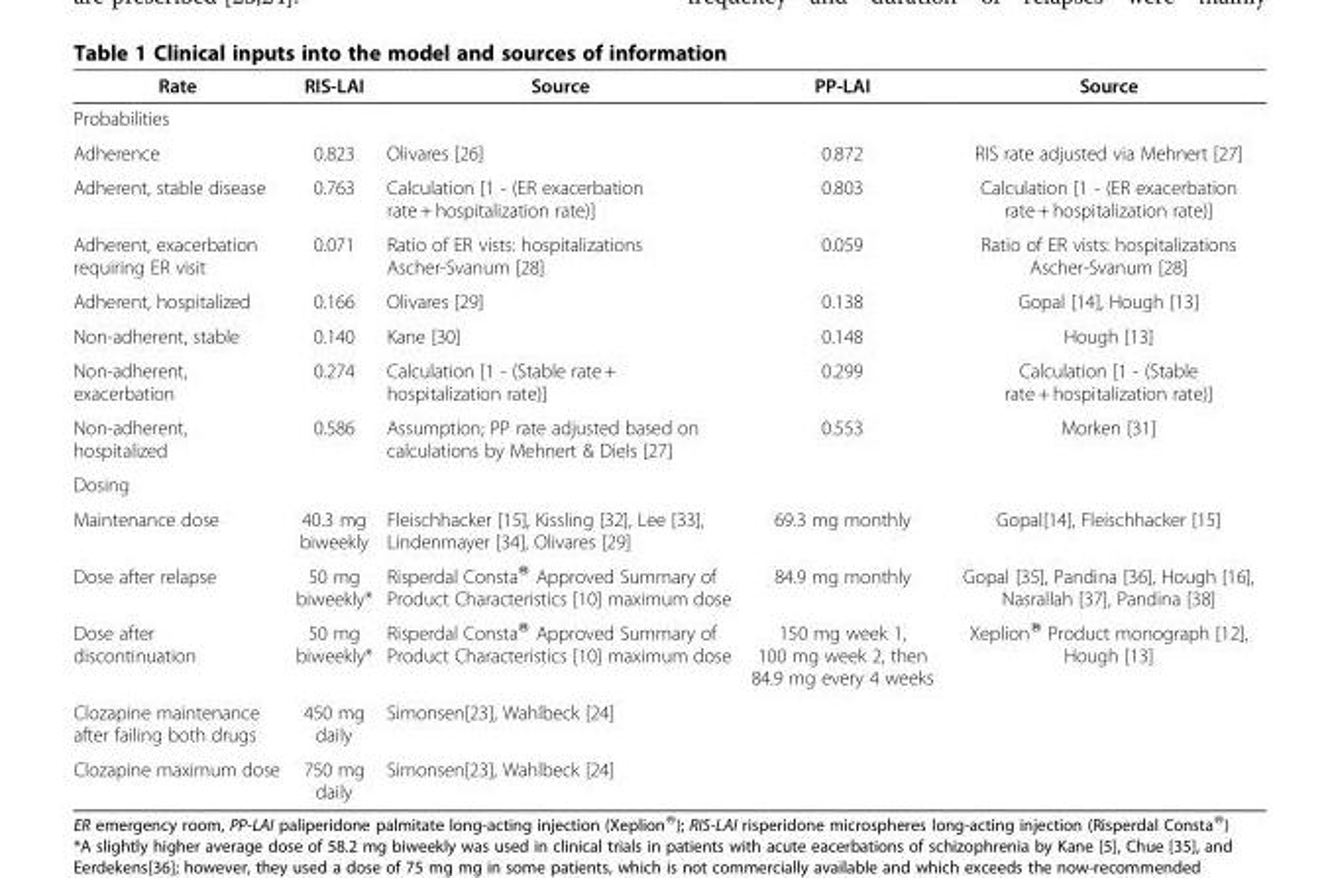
<table><thead><tr><td>Rate</td><td>RIS-LAI</td><td>Source</td><td>PP-LAI</td><td>Source</td></tr></thead><tbody><tr><td colspan="5">Probabilities</td></tr><tr><td>Adherence</td><td>0.823</td><td>Olivares [26]</td><td>0.872</td><td>RIS rate adjusted via Mehnert [27]</td></tr><tr><td>Adherent, stable disease</td><td>0.763</td><td>Calculation [1 - (ER exacerbation rate + hospitalization rate)]</td><td>0.803</td><td>Calculation [1 - (ER exacerbation rate + hospitalization rate)]</td></tr><tr><td>Adherent, exacerbation requiring ER visit</td><td>0.071</td><td>Ratio of ER vists: hospitalizations Ascher-Svanum [28]</td><td>0.059</td><td>Ratio of ER vists: hospitalizations Ascher-Svanum [28]</td></tr><tr><td>Adherent, hospitalized</td><td>0.166</td><td>Olivares [29]</td><td>0.138</td><td>Gopal [14], Hough [13]</td></tr><tr><td>Non-adherent, stable</td><td>0.140</td><td>Kane [30]</td><td>0.148</td><td>Hough [13]</td></tr><tr><td>Non-adherent, exacerbation</td><td>0.274</td><td>Calculation [1 - (Stable rate + hospitalization rate)]</td><td>0.299</td><td>Calculation [1 - (Stable rate + hospitalization rate)]</td></tr><tr><td>Non-adherent, hospitalized</td><td>0.586</td><td>Assumption; PP rate adjusted based on calculations by Mehnert &amp; Diels [27]</td><td>0.553</td><td>Morken [31]</td></tr><tr><td colspan="5">Dosing</td></tr><tr><td>Maintenance dose</td><td>40.3 mg biweekly</td><td>Fleischhacker [15], Kissling [32], Lee [33], Lindenmayer [34], Olivares [29]</td><td>69.3 mg monthly</td><td>Gopal[14], Fleischhacker [15]</td></tr><tr><td>Dose after relapse</td><td>50 mg biweekly*</td><td>Risperdal Consta® Approved Summary of Product Characteristics [10] maximum dose</td><td>84.9 mg monthly</td><td>Gopal [35], Pandina [36], Hough [16], Nasrallah [37], Pandina [38]</td></tr><tr><td>Dose after discontinuation</td><td>50 mg biweekly*</td><td>Risperdal Consta® Approved Summary of Product Characteristics [10] maximum dose</td><td>150 mg week 1, 100 mg week 2, then 84.9 mg every 4 weeks</td><td>Xeplion® Product monograph [12], Hough [13]</td></tr><tr><td>Clozapine maintenance after failing both drugs</td><td>450 mg daily</td><td>Simonsen[23], Wahlbeck [24]</td><td></td><td></td></tr><tr><td>Clozapine maximum dose</td><td>750 mg daily</td><td>Simonsen[23], Wahlbeck [24]</td><td></td><td></td></tr></tbody></table>